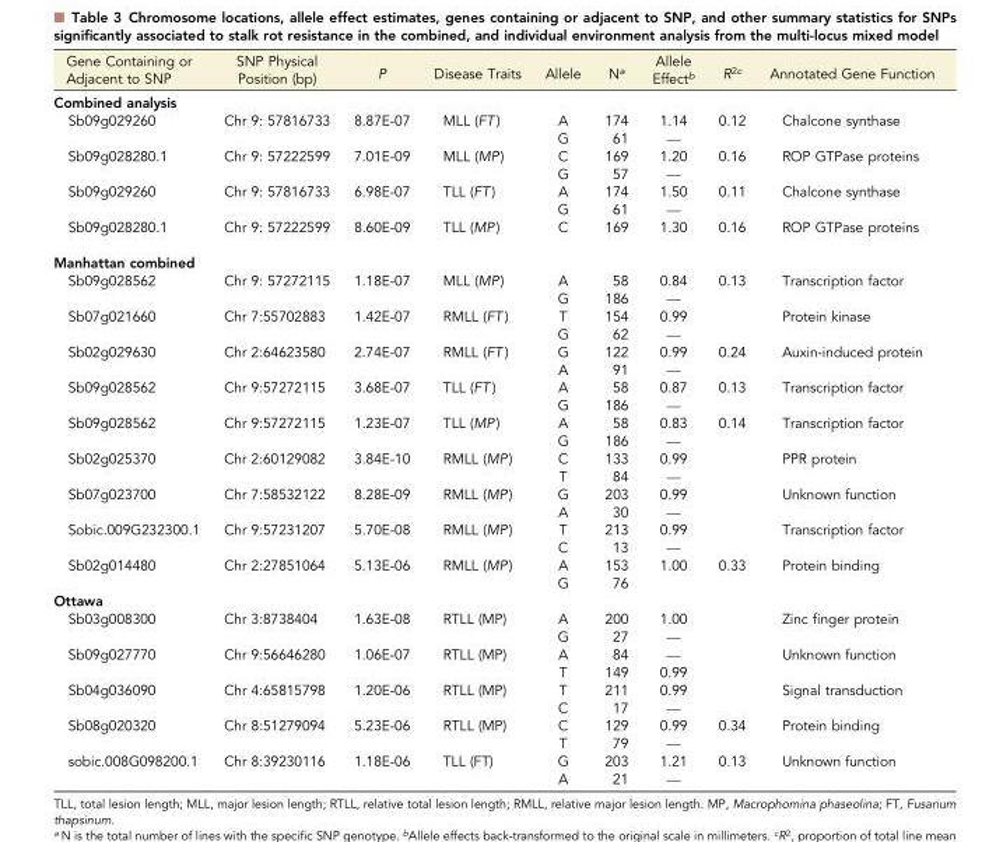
<table><thead><tr><td>Gene Containing or Adjacent to SNP</td><td>SNP Physical Position (bp)</td><td>P</td><td>Disease Traits</td><td>Allele</td><td>N<sup>a</sup></td><td>Allele Effect<sup>b</sup></td><td>R<sup>2c</sup></td><td>Annotated Gene Function</td></tr></thead><tbody><tr><td colspan="9">Combined analysis</td></tr><tr><td rowspan="2">Sb09g029260</td><td>Chr 9: 57816733</td><td>8.87E-07</td><td>MLL (FT )</td><td>A</td><td>174</td><td>1.14</td><td>0.12</td><td>Chalcone synthase</td></tr><tr><td></td><td></td><td></td><td>G</td><td>61</td><td>—</td><td></td><td></td></tr><tr><td rowspan="2">Sb09g028280.1</td><td>Chr 9: 57222599</td><td>7.01E-09</td><td>MLL (MP)</td><td>C</td><td>169</td><td>1.20</td><td>0.16</td><td>ROP GTPase proteins</td></tr><tr><td></td><td></td><td></td><td>G</td><td>57</td><td>—</td><td></td><td></td></tr><tr><td rowspan="2">Sb09g029260</td><td>Chr 9: 57816733</td><td>6.98E-07</td><td>TLL (FT)</td><td>A</td><td>174</td><td>1.50</td><td>0.11</td><td>Chalcone synthase</td></tr><tr><td></td><td></td><td></td><td>G</td><td>61</td><td>—</td><td></td><td></td></tr><tr><td>Sb09g028280.1</td><td>Chr 9: 57222599</td><td>8.60E-09</td><td>TLL (MP)</td><td>C</td><td>169</td><td>1.30</td><td>0.16</td><td>ROP GTPase proteins</td></tr><tr><td colspan="9">Manhattan combined</td></tr><tr><td rowspan="2">Sb09g028562</td><td>Chr 9: 57272115</td><td>1.18E-07</td><td>MLL (MP)</td><td>A</td><td>58</td><td>0.84</td><td>0.13</td><td>Transcription factor</td></tr><tr><td></td><td></td><td></td><td>G</td><td>186</td><td>—</td><td></td><td></td></tr><tr><td rowspan="2">Sb07g021660</td><td>Chr 7:55702883</td><td>1.42E-07</td><td>RMLL (FT )</td><td>T</td><td>154</td><td>0.99</td><td></td><td>Protein kinase</td></tr><tr><td></td><td></td><td></td><td>G</td><td>62</td><td>—</td><td></td><td></td></tr><tr><td rowspan="2">Sb02g029630</td><td>Chr 2:64623580</td><td>2.74E-07</td><td>RMLL (FT )</td><td>G</td><td>122</td><td>0.99</td><td>0.24</td><td>Auxin-induced protein</td></tr><tr><td></td><td></td><td></td><td>A</td><td>91</td><td>—</td><td></td><td></td></tr><tr><td rowspan="2">Sb09g028562</td><td>Chr 9:57272115</td><td>3.68E-07</td><td>TLL (FT )</td><td>A</td><td>58</td><td>0.87</td><td>0.13</td><td>Transcription factor</td></tr><tr><td></td><td></td><td></td><td>G</td><td>186</td><td>—</td><td></td><td></td></tr><tr><td rowspan="2">Sb09g028562</td><td>Chr 9:57272115</td><td>1.23E-07</td><td>TLL (MP)</td><td>A</td><td>58</td><td>0.83</td><td>0.14</td><td>Transcription factor</td></tr><tr><td></td><td></td><td></td><td>G</td><td>186</td><td>—</td><td></td><td></td></tr><tr><td rowspan="2">Sb02g025370</td><td>Chr 2:60129082</td><td>3.84E-10</td><td>RMLL (MP)</td><td>C</td><td>133</td><td>0.99</td><td></td><td>PPR protein</td></tr><tr><td></td><td></td><td></td><td>T</td><td>84</td><td>—</td><td></td><td></td></tr><tr><td rowspan="2">Sb07g023700</td><td>Chr 7:58532122</td><td>8.28E-09</td><td>RMLL (MP)</td><td>G</td><td>203</td><td>0.99</td><td></td><td>Unknown function</td></tr><tr><td></td><td></td><td></td><td>A</td><td>30</td><td>—</td><td></td><td></td></tr><tr><td rowspan="2">Sobic.009G232300.1</td><td>Chr 9:57231207</td><td>5.70E-08</td><td>RMLL (MP)</td><td>T</td><td>213</td><td>0.99</td><td></td><td>Transcription factor</td></tr><tr><td></td><td></td><td></td><td>C</td><td>13</td><td>—</td><td></td><td></td></tr><tr><td rowspan="2">Sb02g014480</td><td>Chr 2:27851064</td><td>5.13E-06</td><td>RMLL (MP)</td><td>A</td><td>153</td><td>1.00</td><td>0.33</td><td>Protein binding</td></tr><tr><td></td><td></td><td></td><td>G</td><td>76</td><td></td><td></td><td></td></tr><tr><td colspan="9">Ottawa</td></tr><tr><td rowspan="2">Sb03g008300</td><td>Chr 3:8738404</td><td>1.63E-08</td><td>RTLL (MP)</td><td>A</td><td>200</td><td>1.00</td><td></td><td>Zinc finger protein</td></tr><tr><td></td><td></td><td></td><td>G</td><td>27</td><td>—</td><td></td><td></td></tr><tr><td rowspan="2">Sb09g027770</td><td>Chr 9:56646280</td><td>1.06E-07</td><td>RTLL (MP)</td><td>A</td><td>84</td><td>—</td><td></td><td>Unknown function</td></tr><tr><td></td><td></td><td></td><td>T</td><td>149</td><td>0.99</td><td></td><td></td></tr><tr><td rowspan="2">Sb04g036090</td><td>Chr 4:65815798</td><td>1.20E-06</td><td>RTLL (MP)</td><td>T</td><td>211</td><td>0.99</td><td></td><td>Signal transduction</td></tr><tr><td></td><td></td><td></td><td>C</td><td>17</td><td>—</td><td></td><td></td></tr><tr><td rowspan="2">Sb08g020320</td><td>Chr 8:51279094</td><td>5.23E-06</td><td>RTLL (MP)</td><td>C</td><td>129</td><td>0.99</td><td>0.34</td><td>Protein binding</td></tr><tr><td></td><td></td><td></td><td>T</td><td>79</td><td>—</td><td></td><td></td></tr><tr><td rowspan="2">sobic.008G098200.1</td><td>Chr 8:39230116</td><td>1.18E-06</td><td>TLL (FT)</td><td>G</td><td>203</td><td>1.21</td><td>0.13</td><td>Unknown function</td></tr><tr><td></td><td></td><td></td><td>A</td><td>21</td><td>—</td><td></td><td></td></tr></tbody></table>